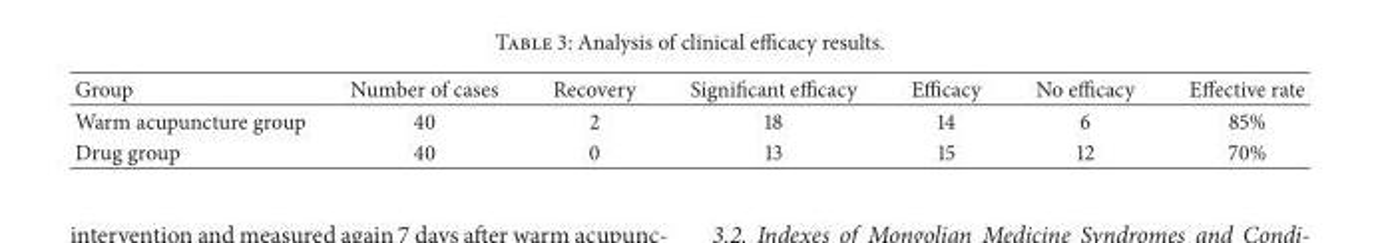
<table><thead><tr><td>Group</td><td>Number of cases</td><td>Recovery</td><td>Significant efficacy</td><td>Efficacy</td><td>No efficacy</td><td>Effective rate</td></tr></thead><tbody><tr><td>Warm acupuncture group</td><td>40</td><td>2</td><td>18</td><td>14</td><td>6</td><td>85%</td></tr><tr><td>Drug group</td><td>40</td><td>0</td><td>13</td><td>15</td><td>12</td><td>70%</td></tr></tbody></table>